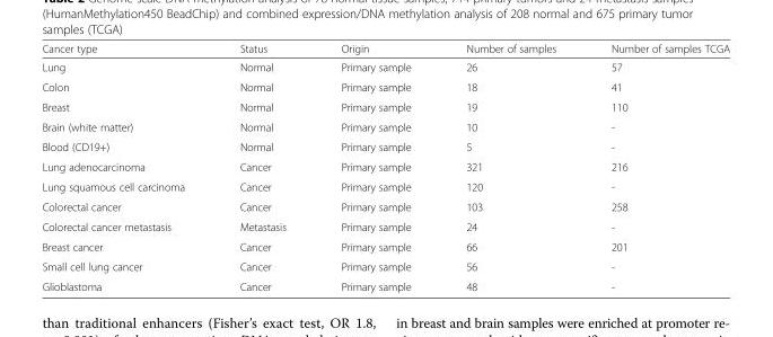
<table><thead><tr><td>Cancer type</td><td>Status</td><td>Origin</td><td>Number of samples</td><td>Number of samples TCGA</td></tr></thead><tbody><tr><td>Lung</td><td>Normal</td><td>Primary sample</td><td>26</td><td>57</td></tr><tr><td>Colon</td><td>Normal</td><td>Primary sample</td><td>18</td><td>41</td></tr><tr><td>Breast</td><td>Normal</td><td>Primary sample</td><td>19</td><td>110</td></tr><tr><td>Brain (white matter)</td><td>Normal</td><td>Primary sample</td><td>10</td><td>-</td></tr><tr><td>Blood (CD19+)</td><td>Normal</td><td>Primary sample</td><td>5</td><td>-</td></tr><tr><td>Lung adenocarcinoma</td><td>Cancer</td><td>Primary sample</td><td>321</td><td>216</td></tr><tr><td>Lung squamous cell carcinoma</td><td>Cancer</td><td>Primary sample</td><td>120</td><td>-</td></tr><tr><td>Colorectal cancer</td><td>Cancer</td><td>Primary sample</td><td>103</td><td>258</td></tr><tr><td>Colorectal cancer metastasis</td><td>Metastasis</td><td>Primary sample</td><td>24</td><td>-</td></tr><tr><td>Breast cancer</td><td>Cancer</td><td>Primary sample</td><td>66</td><td>201</td></tr><tr><td>Small cell lung cancer</td><td>Cancer</td><td>Primary sample</td><td>56</td><td>-</td></tr><tr><td>Glioblastoma</td><td>Cancer</td><td>Primary sample</td><td>48</td><td>-</td></tr></tbody></table>